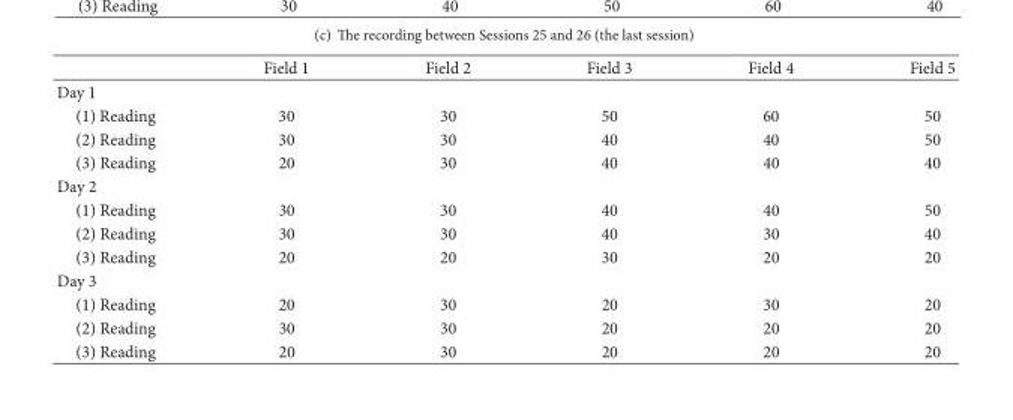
<table><thead><tr><td></td><td>Field 1</td><td>Field 2</td><td>Field 3</td><td>Field 4</td><td>Field 5</td></tr></thead><tbody><tr><td colspan="6">Day 1</td></tr><tr><td>(1) Reading</td><td>30</td><td>30</td><td>50</td><td>60</td><td>50</td></tr><tr><td>(2) Reading</td><td>30</td><td>30</td><td>40</td><td>40</td><td>50</td></tr><tr><td>(3) Reading</td><td>20</td><td>30</td><td>40</td><td>40</td><td>40</td></tr><tr><td colspan="6">Day 2</td></tr><tr><td>(1) Reading</td><td>30</td><td>30</td><td>40</td><td>40</td><td>50</td></tr><tr><td>(2) Reading</td><td>30</td><td>30</td><td>40</td><td>30</td><td>40</td></tr><tr><td>(3) Reading</td><td>20</td><td>20</td><td>30</td><td>20</td><td>20</td></tr><tr><td colspan="6">Day 3</td></tr><tr><td>(1) Reading</td><td>20</td><td>30</td><td>20</td><td>30</td><td>20</td></tr><tr><td>(2) Reading</td><td>30</td><td>30</td><td>20</td><td>20</td><td>20</td></tr><tr><td>(3) Reading</td><td>20</td><td>30</td><td>20</td><td>20</td><td>20</td></tr></tbody></table>